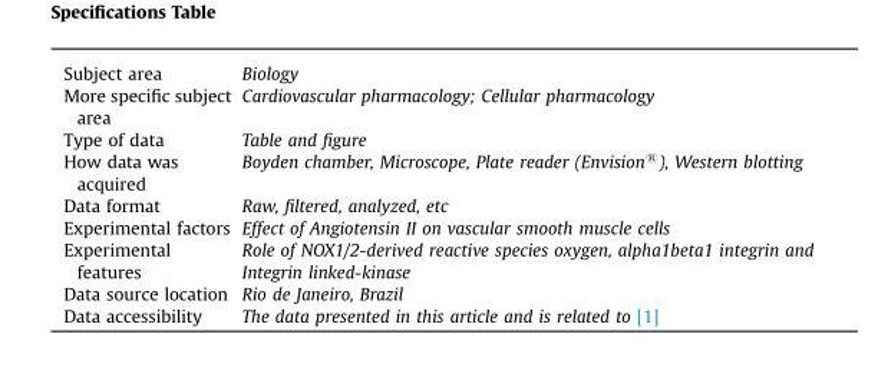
<table><tbody><tr><td>Subject area</td><td>Biology</td></tr><tr><td>More specific subject area</td><td>Cardiovascular pharmacology; Cellular pharmacology</td></tr><tr><td>Type of data</td><td>Table and figure</td></tr><tr><td>How data was acquired</td><td>Boyden chamber, Microscope, Plate reader (Envision®), Western blotting</td></tr><tr><td>Data format</td><td>Raw, filtered, analyzed, etc</td></tr><tr><td>Experimental factors</td><td>Effect of Angiotensin II on vascular smooth muscle cells</td></tr><tr><td>Experimental features</td><td>Role of NOX1/2-derived reactive species oxygen, alpha1beta1 integrin and Integrin linked-kinase</td></tr><tr><td>Data source location</td><td>Rio de Janeiro, Brazil</td></tr><tr><td>Data accessibility</td><td>The data presented in this article and is related to [1]</td></tr></tbody></table>